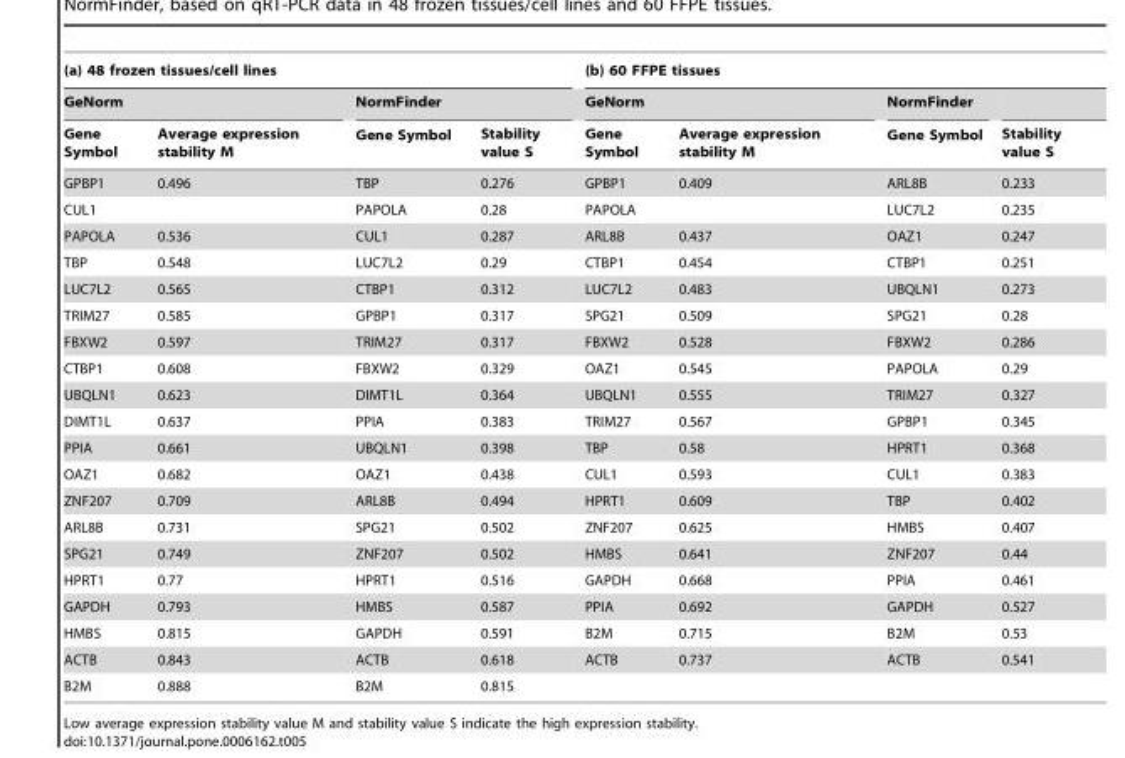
<table><thead><tr><td colspan="4">(a) 48 frozen tissues/cell lines</td><td colspan="4">(b) 60 FFPE tissues</td></tr><tr><td colspan="2">GeNorm</td><td colspan="2">NormFinder</td><td colspan="2">GeNorm</td><td rowspan="2">NormFinder Gene Symbol</td><td rowspan="2">Stability value S</td></tr><tr><td>Gene Symbol</td><td>Average expression stability M</td><td>Gene Symbol</td><td>Stability value S</td><td>Gene Symbol</td><td>Average expression stability M</td></tr></thead><tbody><tr><td>GPBP1</td><td>0.496</td><td>TBP</td><td>0.276</td><td>GPBP1</td><td>0.409</td><td>ARL8B</td><td>0.233</td></tr><tr><td>CUL1</td><td></td><td>PAPOLA</td><td>0.28</td><td>PAPOLA</td><td></td><td>LUC7L2</td><td>0.235</td></tr><tr><td>PAPOLA</td><td>0.536</td><td>CUL1</td><td>0.287</td><td>ARL8B</td><td>0.437</td><td>OAZ1</td><td>0.247</td></tr><tr><td>TBP</td><td>0.548</td><td>LUC7L2</td><td>0.29</td><td>CTBP1</td><td>0.454</td><td>CTBP1</td><td>0.251</td></tr><tr><td>LUC7L2</td><td>0.565</td><td>CTBP1</td><td>0.312</td><td>LUC7L2</td><td>0.483</td><td>UBQLN1</td><td>0.273</td></tr><tr><td>TRIM27</td><td>0.585</td><td>GPBP1</td><td>0.317</td><td>SPG21</td><td>0.509</td><td>SPG21</td><td>0.28</td></tr><tr><td>FBXW2</td><td>0.597</td><td>TRIM27</td><td>0.317</td><td>FBXW2</td><td>0.528</td><td>FBXW2</td><td>0.286</td></tr><tr><td>CTBP1</td><td>0.608</td><td>FBXW2</td><td>0.329</td><td>OAZ1</td><td>0.545</td><td>PAPOLA</td><td>0.29</td></tr><tr><td>UBQLN1</td><td>0.623</td><td>DIMT1L</td><td>0.364</td><td>UBQLN1</td><td>0.555</td><td>TRIM27</td><td>0.327</td></tr><tr><td>DIMT1L</td><td>0.637</td><td>PPIA</td><td>0.383</td><td>TRIM27</td><td>0.567</td><td>GPBP1</td><td>0.345</td></tr><tr><td>PPIA</td><td>0.661</td><td>UBQLN1</td><td>0.398</td><td>TBP</td><td>0.58</td><td>HPRT1</td><td>0.368</td></tr><tr><td>OAZ1</td><td>0.682</td><td>OAZ1</td><td>0.438</td><td>CUL1</td><td>0.593</td><td>CUL1</td><td>0.383</td></tr><tr><td>ZNF207</td><td>0.709</td><td>ARL8B</td><td>0.494</td><td>HPRT1</td><td>0.609</td><td>TBP</td><td>0.402</td></tr><tr><td>ARL8B</td><td>0.731</td><td>SPG21</td><td>0.502</td><td>ZNF207</td><td>0.625</td><td>HMBS</td><td>0.407</td></tr><tr><td>SPG21</td><td>0.749</td><td>ZNF207</td><td>0.502</td><td>HMBS</td><td>0.641</td><td>ZNF207</td><td>0.44</td></tr><tr><td>HPRT1</td><td>0.77</td><td>HPRT1</td><td>0.516</td><td>GAPDH</td><td>0.668</td><td>PPIA</td><td>0.461</td></tr><tr><td>GAPDH</td><td>0.793</td><td>HMBS</td><td>0.587</td><td>PPIA</td><td>0.692</td><td>GAPDH</td><td>0.527</td></tr><tr><td>HMBS</td><td>0.815</td><td>GAPDH</td><td>0.591</td><td>B2M</td><td>0.715</td><td>B2M</td><td>0.53</td></tr><tr><td>ACTB</td><td>0.843</td><td>ACTB</td><td>0.618</td><td>ACTB</td><td>0.737</td><td>ACTB</td><td>0.541</td></tr><tr><td>B2M</td><td>0.888</td><td>B2M</td><td>0.815</td><td></td><td></td><td></td><td></td></tr></tbody></table>